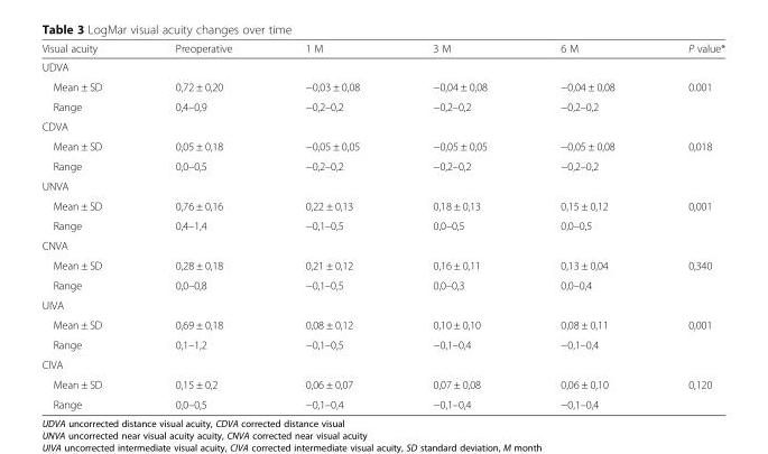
<table><thead><tr><td>Visual acuity</td><td>Preoperative</td><td>1 M</td><td>3 M</td><td>6 M</td><td>P value*</td></tr></thead><tbody><tr><td colspan="6">UDVA</td></tr><tr><td>Mean ± SD</td><td>0,72 ± 0,20</td><td>−0,03 ± 0,08</td><td>−0,04 ± 0,08</td><td>−0,04 ± 0,08</td><td>0.001</td></tr><tr><td>Range</td><td>0,4–0,9</td><td>−0,2–0,2</td><td>−0,2–0,2</td><td>−0,2–0,2</td><td></td></tr><tr><td colspan="6">CDVA</td></tr><tr><td>Mean ± SD</td><td>0,05 ± 0,18</td><td>−0,05 ± 0,05</td><td>−0,05 ± 0,05</td><td>−0,05 ± 0,08</td><td>0,018</td></tr><tr><td>Range</td><td>0,0–0,5</td><td>−0,2–0,2</td><td>−0,2–0,2</td><td>−0,2–0,2</td><td></td></tr><tr><td colspan="6">UNVA</td></tr><tr><td>Mean ± SD</td><td>0,76 ± 0,16</td><td>0,22 ± 0,13</td><td>0,18 ± 0,13</td><td>0,15 ± 0,12</td><td>0,001</td></tr><tr><td>Range</td><td>0,4–1,4</td><td>−0,1–0,5</td><td>0,0–0,5</td><td>0,0–0,5</td><td></td></tr><tr><td colspan="6">CNVA</td></tr><tr><td>Mean ± SD</td><td>0,28 ± 0,18</td><td>0,21 ± 0,12</td><td>0,16 ± 0,11</td><td>0,13 ± 0,04</td><td>0,340</td></tr><tr><td>Range</td><td>0,0–0,8</td><td>−0,1–0,5</td><td>0,0–0,3</td><td>0,0–0,4</td><td></td></tr><tr><td colspan="6">UIVA</td></tr><tr><td>Mean ± SD</td><td>0,69 ± 0,18</td><td>0,08 ± 0,12</td><td>0,10 ± 0,10</td><td>0,08 ± 0,11</td><td>0,001</td></tr><tr><td>Range</td><td>0,1–1,2</td><td>−0,1–0,5</td><td>−0,1–0,4</td><td>−0,1–0,4</td><td></td></tr><tr><td colspan="6">CIVA</td></tr><tr><td>Mean ± SD</td><td>0,15 ± 0,2</td><td>0,06 ± 0,07</td><td>0,07 ± 0,08</td><td>0,06 ± 0,10</td><td>0,120</td></tr><tr><td>Range</td><td>0,0–0,5</td><td>−0,1–0,4</td><td>−0,1–0,4</td><td>−0,1–0,4</td><td></td></tr></tbody></table>